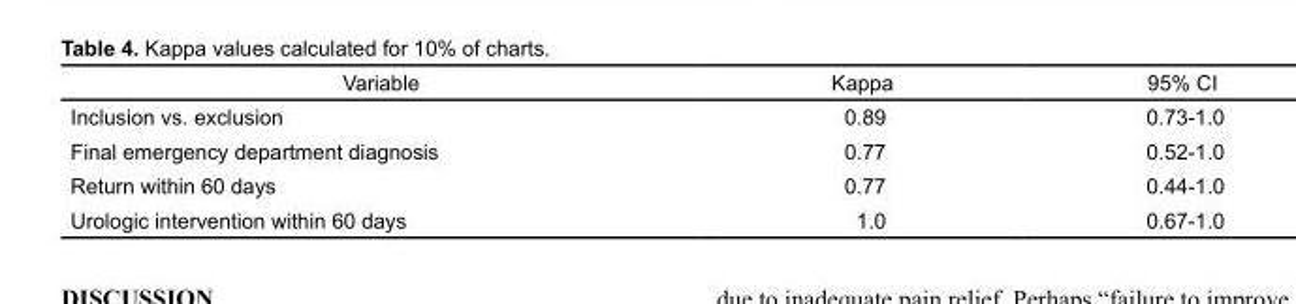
<table><thead><tr><td>Variable</td><td>Kappa</td><td>95% CI</td></tr></thead><tbody><tr><td>Inclusion vs. exclusion</td><td>0.89</td><td>0.73-1.0</td></tr><tr><td>Final emergency department diagnosis</td><td>0.77</td><td>0.52-1.0</td></tr><tr><td>Return within 60 days</td><td>0.77</td><td>0.44-1.0</td></tr><tr><td>Urologic intervention within 60 days</td><td>1.0</td><td>0.67-1.0</td></tr></tbody></table>